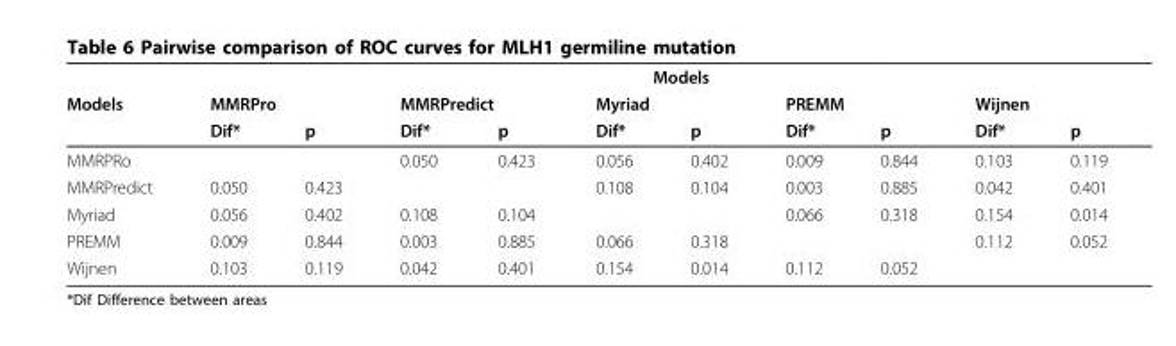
<table><thead><tr><td rowspan="3">Models</td><td colspan="10">Models</td></tr><tr><td colspan="2">MMRPro</td><td colspan="2">MMRPredict</td><td colspan="2">Myriad</td><td colspan="2">PREMM</td><td colspan="2">Wijnen</td></tr><tr><td>Dif*</td><td>p</td><td>Dif*</td><td>p</td><td>Dif*</td><td>p</td><td>Dif*</td><td>p</td><td>Dif*</td><td>p</td></tr></thead><tbody><tr><td>MMRPRo</td><td></td><td></td><td>0.050</td><td>0.423</td><td>0.056</td><td>0.402</td><td>0.009</td><td>0.844</td><td>0.103</td><td>0.119</td></tr><tr><td>MMRPredict</td><td>0.050</td><td>0.423</td><td></td><td></td><td>0.108</td><td>0.104</td><td>0.003</td><td>0.885</td><td>0.042</td><td>0.401</td></tr><tr><td>Myriad</td><td>0.056</td><td>0.402</td><td>0.108</td><td>0.104</td><td></td><td></td><td>0.066</td><td>0.318</td><td>0.154</td><td>0.014</td></tr><tr><td>PREMM</td><td>0.009</td><td>0.844</td><td>0.003</td><td>0.885</td><td>0.066</td><td>0.318</td><td></td><td></td><td>0.112</td><td>0.052</td></tr><tr><td>Wijnen</td><td>0.103</td><td>0.119</td><td>0.042</td><td>0.401</td><td>0.154</td><td>0.014</td><td>0.112</td><td>0.052</td><td></td><td></td></tr></tbody></table>